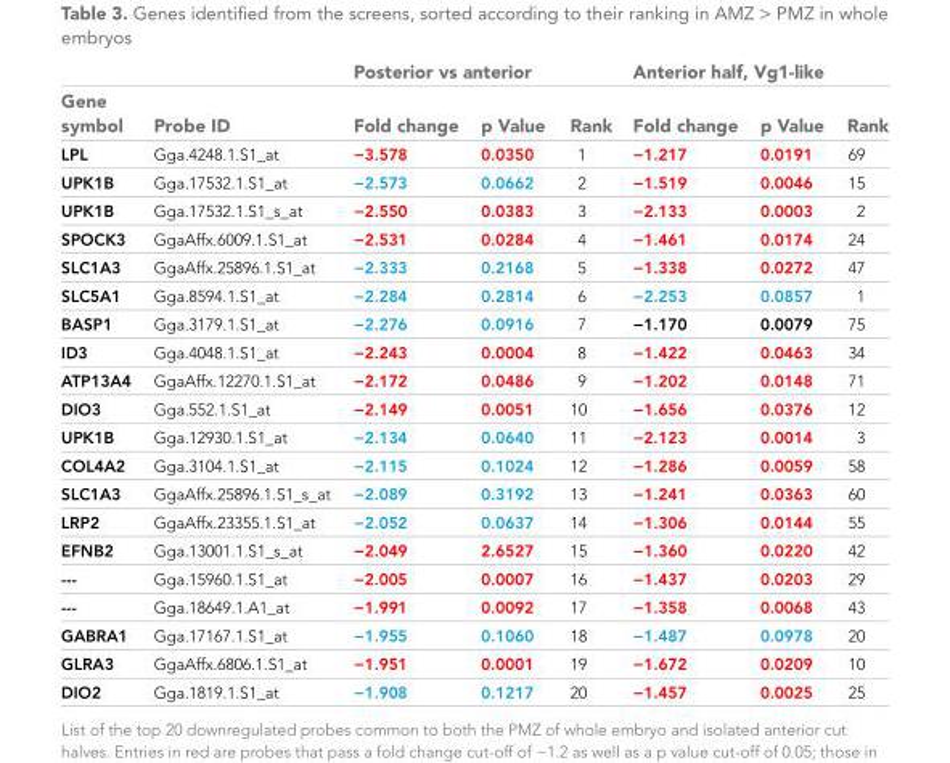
<table><thead><tr><td rowspan="2">Gene symbol</td><td rowspan="2">Probe ID</td><td colspan="3">Posterior vs anterior</td><td colspan="3">Anterior half, Vg1-like</td></tr><tr><td>Fold change</td><td>p Value</td><td>Rank</td><td>Fold change</td><td>p Value</td><td>Rank</td></tr></thead><tbody><tr><td>LPL</td><td>Gga.4248.1.S1_at</td><td>−3.578</td><td>0.0350</td><td>1</td><td>−1.217</td><td>0.0191</td><td>69</td></tr><tr><td>UPK1B</td><td>Gga.17532.1.S1_at</td><td>−2.573</td><td>0.0662</td><td>2</td><td>−1.519</td><td>0.0046</td><td>15</td></tr><tr><td>UPK1B</td><td>Gga.17532.1.S1_s_at</td><td>−2.550</td><td>0.0383</td><td>3</td><td>−2.133</td><td>0.0003</td><td>2</td></tr><tr><td>SPOCK3</td><td>GgaAffx.6009.1.S1_at</td><td>−2.531</td><td>0.0284</td><td>4</td><td>−1.461</td><td>0.0174</td><td>24</td></tr><tr><td>SLC1A3</td><td>GgaAffx.25896.1.S1_at</td><td>−2.333</td><td>0.2168</td><td>5</td><td>−1.338</td><td>0.0272</td><td>47</td></tr><tr><td>SLC5A1</td><td>Gga.8594.1.S1_at</td><td>−2.284</td><td>0.2814</td><td>6</td><td>−2.253</td><td>0.0857</td><td>1</td></tr><tr><td>BASP1</td><td>Gga.3179.1.S1_at</td><td>−2.276</td><td>0.0916</td><td>7</td><td>−1.170</td><td>0.0079</td><td>75</td></tr><tr><td>ID3</td><td>Gga.4048.1.S1_at</td><td>−2.243</td><td>0.0004</td><td>8</td><td>−1.422</td><td>0.0463</td><td>34</td></tr><tr><td>ATP13A4</td><td>GgaAffx.12270.1.S1_at</td><td>−2.172</td><td>0.0486</td><td>9</td><td>−1.202</td><td>0.0148</td><td>71</td></tr><tr><td>DIO3</td><td>Gga.552.1.S1_at</td><td>−2.149</td><td>0.0051</td><td>10</td><td>−1.656</td><td>0.0376</td><td>12</td></tr><tr><td>UPK1B</td><td>Gga.12930.1.S1_at</td><td>−2.134</td><td>0.0640</td><td>11</td><td>−2.123</td><td>0.0014</td><td>3</td></tr><tr><td>COL4A2</td><td>Gga.3104.1.S1_at</td><td>−2.115</td><td>0.1024</td><td>12</td><td>−1.286</td><td>0.0059</td><td>58</td></tr><tr><td>SLC1A3</td><td>GgaAffx.25896.1.S1_s_at</td><td>−2.089</td><td>0.3192</td><td>13</td><td>−1.241</td><td>0.0363</td><td>60</td></tr><tr><td>LRP2</td><td>GgaAffx.23355.1.S1_at</td><td>−2.052</td><td>0.0637</td><td>14</td><td>−1.306</td><td>0.0144</td><td>55</td></tr><tr><td>EFNB2</td><td>Gga.13001.1.S1_s_at</td><td>−2.049</td><td>2.6527</td><td>15</td><td>−1.360</td><td>0.0220</td><td>42</td></tr><tr><td>---</td><td>Gga.15960.1.S1_at</td><td>−2.005</td><td>0.0007</td><td>16</td><td>−1.437</td><td>0.0203</td><td>29</td></tr><tr><td>---</td><td>Gga.18649.1.A1_at</td><td>−1.991</td><td>0.0092</td><td>17</td><td>−1.358</td><td>0.0068</td><td>43</td></tr><tr><td>GABRA1</td><td>Gga.17167.1.S1_at</td><td>−1.955</td><td>0.1060</td><td>18</td><td>−1.487</td><td>0.0978</td><td>20</td></tr><tr><td>GLRA3</td><td>GgaAffx.6806.1.S1_at</td><td>−1.951</td><td>0.0001</td><td>19</td><td>−1.672</td><td>0.0209</td><td>10</td></tr><tr><td>DIO2</td><td>Gga.1819.1.S1_at</td><td>−1.908</td><td>0.1217</td><td>20</td><td>−1.457</td><td>0.0025</td><td>25</td></tr></tbody></table>